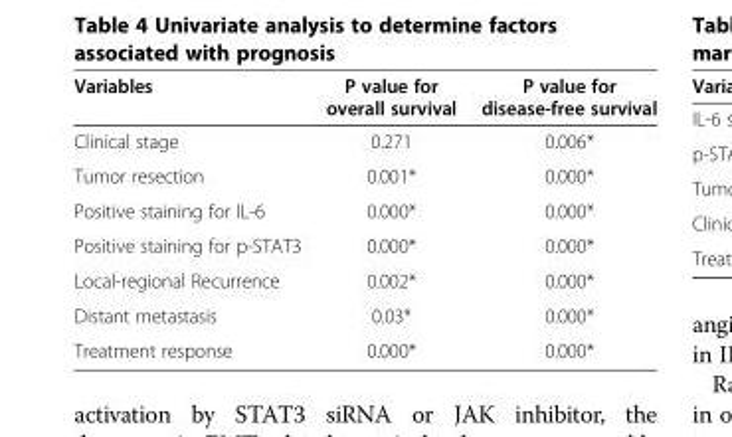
<table><thead><tr><td>Variables</td><td>P value for overall survival</td><td>P value for disease-free survival</td></tr></thead><tbody><tr><td>Clinical stage</td><td>0.271</td><td>0.006*</td></tr><tr><td>Tumor resection</td><td>0.001*</td><td>0.000*</td></tr><tr><td>Positive staining for IL-6</td><td>0.000*</td><td>0.000*</td></tr><tr><td>Positive staining for p-STAT3</td><td>0.000*</td><td>0.000*</td></tr><tr><td>Local-regional Recurrence</td><td>0.002*</td><td>0.000*</td></tr><tr><td>Distant metastasis</td><td>0.03*</td><td>0.000*</td></tr><tr><td>Treatment response</td><td>0.000*</td><td>0.000*</td></tr></tbody></table>